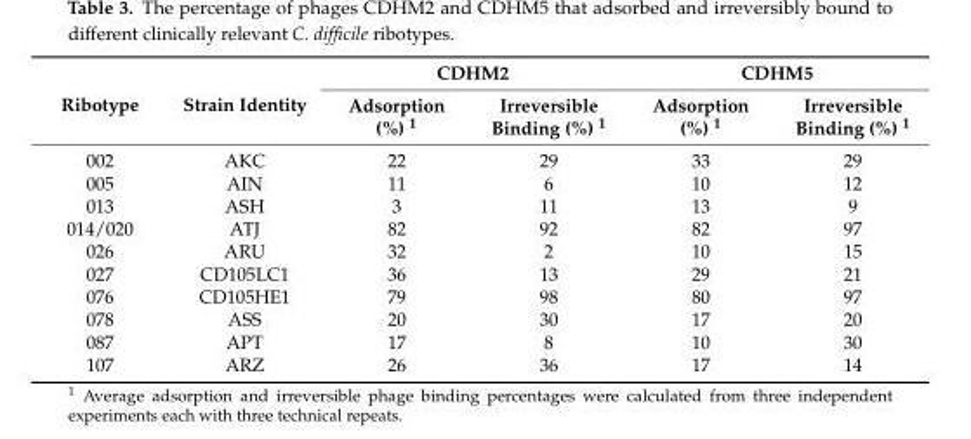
<table><thead><tr><td rowspan="2">Ribotype</td><td rowspan="2">Strain Identity</td><td colspan="2">CDHM2</td><td colspan="2">CDHM5</td></tr><tr><td>Adsorption (%) <sup>1</sup></td><td>Irreversible Binding (%) <sup>1</sup></td><td>Adsorption (%) <sup>1</sup></td><td>Irreversible Binding (%) <sup>1</sup></td></tr></thead><tbody><tr><td>002</td><td>AKC</td><td>22</td><td>29</td><td>33</td><td>29</td></tr><tr><td>005</td><td>AIN</td><td>11</td><td>6</td><td>10</td><td>12</td></tr><tr><td>013</td><td>ASH</td><td>3</td><td>11</td><td>13</td><td>9</td></tr><tr><td>014/020</td><td>ATJ</td><td>82</td><td>92</td><td>82</td><td>97</td></tr><tr><td>026</td><td>ARU</td><td>32</td><td>2</td><td>10</td><td>15</td></tr><tr><td>027</td><td>CD105LC1</td><td>36</td><td>13</td><td>29</td><td>21</td></tr><tr><td>076</td><td>CD105HE1</td><td>79</td><td>98</td><td>80</td><td>97</td></tr><tr><td>078</td><td>ASS</td><td>20</td><td>30</td><td>17</td><td>20</td></tr><tr><td>087</td><td>APT</td><td>17</td><td>8</td><td>10</td><td>30</td></tr><tr><td>107</td><td>ARZ</td><td>26</td><td>36</td><td>17</td><td>14</td></tr></tbody></table>